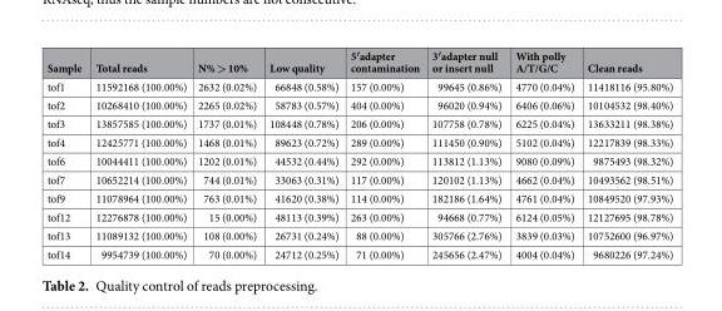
<table><thead><tr><td>Sample</td><td>Total reads</td><td>N% &gt; 10%</td><td>Low quality</td><td>5′adapter contamination</td><td>3′adapter null or insert null</td><td>With polly A/T/G/C</td><td>Clean reads</td></tr></thead><tbody><tr><td>tof1</td><td>11592168 (100.00%)</td><td>2632 (0.02%)</td><td>66848 (0.58%)</td><td>157 (0.00%)</td><td>99645 (0.86%)</td><td>4770 (0.04%)</td><td>11418116 (95.80%)</td></tr><tr><td>tof2</td><td>10268410 (100.00%)</td><td>2265 (0.02%)</td><td>58783 (0.57%)</td><td>404 (0.00%)</td><td>96020 (0.94%)</td><td>6406 (0.06%)</td><td>10104532 (98.40%)</td></tr><tr><td>tof3</td><td>13857585 (100.00%)</td><td>1737 (0.01%)</td><td>108448 (0.78%)</td><td>206 (0.00%)</td><td>107758 (0.78%)</td><td>6225 (0.04%)</td><td>13633211 (98.38%)</td></tr><tr><td>tof4</td><td>12425771 (100.00%)</td><td>1468 (0.01%)</td><td>89623 (0.72%)</td><td>289 (0.00%)</td><td>111450 (0.90%)</td><td>5102 (0.04%)</td><td>12217839 (98.33%)</td></tr><tr><td>tof6</td><td>10044411 (100.00%)</td><td>1202 (0.01%)</td><td>44532 (0.44%)</td><td>292 (0.00%)</td><td>113812 (1.13%)</td><td>9080 (0.09%)</td><td>9875493 (98.32%)</td></tr><tr><td>tof7</td><td>10652214 (100.00%)</td><td>744 (0.01%)</td><td>33063 (0.31%)</td><td>117 (0.00%)</td><td>120102 (1.13%)</td><td>4662 (0.04%)</td><td>10493562 (98.51%)</td></tr><tr><td>tof9</td><td>11078964 (100.00%)</td><td>763 (0.01%)</td><td>41620 (0.38%)</td><td>114 (0.00%)</td><td>182186 (1.64%)</td><td>4761 (0.04%)</td><td>10849520 (97.93%)</td></tr><tr><td>tof12</td><td>12276878 (100.00%)</td><td>15 (0.00%)</td><td>48113 (0.39%)</td><td>263 (0.00%)</td><td>94668 (0.77%)</td><td>6124 (0.05%)</td><td>12127695 (98.78%)</td></tr><tr><td>tof13</td><td>11089132 (100.00%)</td><td>108 (0.00%)</td><td>26731 (0.24%)</td><td>88 (0.00%)</td><td>305766 (2.76%)</td><td>3839 (0.03%)</td><td>10752600 (96.97%)</td></tr><tr><td>tof14</td><td>9954739 (100.00%)</td><td>70 (0.00%)</td><td>24712 (0.25%)</td><td>71 (0.00%)</td><td>245656 (2.47%)</td><td>4004 (0.04%)</td><td>9680226 (97.24%)</td></tr></tbody></table>